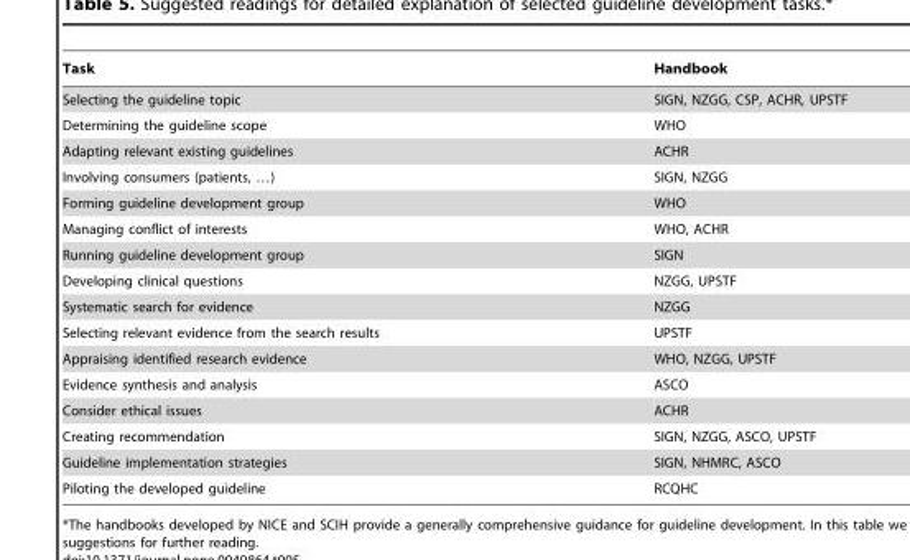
<table><thead><tr><td>Task</td><td>Handbook</td></tr></thead><tbody><tr><td>Selecting the guideline topic</td><td>SIGN, NZGG, CSP, ACHR, UPSTF</td></tr><tr><td>Determining the guideline scope</td><td>WHO</td></tr><tr><td>Adapting relevant existing guidelines</td><td>ACHR</td></tr><tr><td>Involving consumers (patients, …)</td><td>SIGN, NZGG</td></tr><tr><td>Forming guideline development group</td><td>WHO</td></tr><tr><td>Managing conflict of interests</td><td>WHO, ACHR</td></tr><tr><td>Running guideline development group</td><td>SIGN</td></tr><tr><td>Developing clinical questions</td><td>NZGG, UPSTF</td></tr><tr><td>Systematic search for evidence</td><td>NZGG</td></tr><tr><td>Selecting relevant evidence from the search results</td><td>UPSTF</td></tr><tr><td>Appraising identified research evidence</td><td>WHO, NZGG, UPSTF</td></tr><tr><td>Evidence synthesis and analysis</td><td>ASCO</td></tr><tr><td>Consider ethical issues</td><td>ACHR</td></tr><tr><td>Creating recommendation</td><td>SIGN, NZGG, ASCO, UPSTF</td></tr><tr><td>Guideline implementation strategies</td><td>SIGN, NHMRC, ASCO</td></tr><tr><td>Piloting the developed guideline</td><td>RCQHC</td></tr></tbody></table>